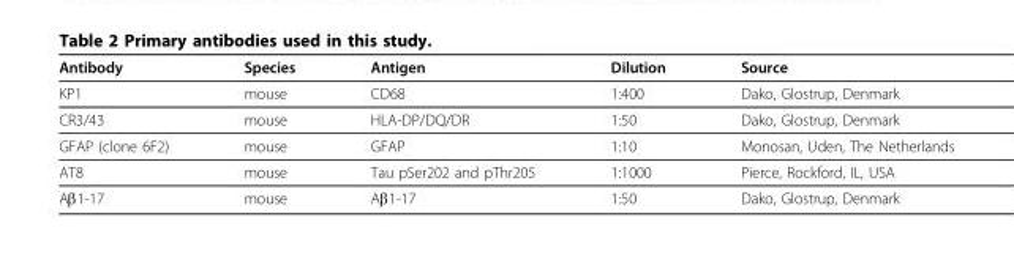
<table><thead><tr><td>Antibody</td><td>Species</td><td>Antigen</td><td>Dilution</td><td>Source</td></tr></thead><tbody><tr><td>KP1</td><td>mouse</td><td>CD68</td><td>1:400</td><td>Dako, Glostrup, Denmark</td></tr><tr><td>CR3/43</td><td>mouse</td><td>HLA-DP/DQ/DR</td><td>1:50</td><td>Dako, Glostrup, Denmark</td></tr><tr><td>GFAP (clone 6F2)</td><td>mouse</td><td>GFAP</td><td>1:10</td><td>Monosan, Uden, The Netherlands</td></tr><tr><td>AT8</td><td>mouse</td><td>Tau pSer202 and pThr205</td><td>1:1000</td><td>Pierce, Rockford, IL, USA</td></tr><tr><td>Aβ1-17</td><td>mouse</td><td>Aβ1-17</td><td>1:50</td><td>Dako, Glostrup, Denmark</td></tr></tbody></table>